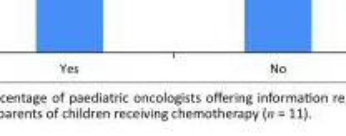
<table><tbody><tr><td>Yes</td><td>No</td></tr></tbody></table>